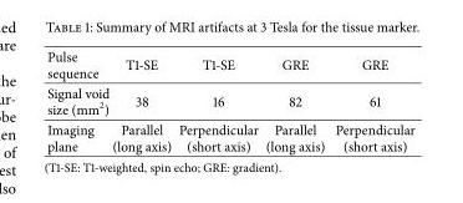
<table><tbody><tr><td>Pulse sequence</td><td>T1-SE</td><td>T1-SE</td><td>GRE</td><td>GRE</td></tr><tr><td>Signal void size (mm<sup>2</sup>)</td><td>38</td><td>16</td><td>82</td><td>61</td></tr><tr><td>Imaging plane</td><td>Parallel (long axis)</td><td>Perpendicular (short axis)</td><td>Parallel (long axis)</td><td>Perpendicular (short axis)</td></tr></tbody></table>